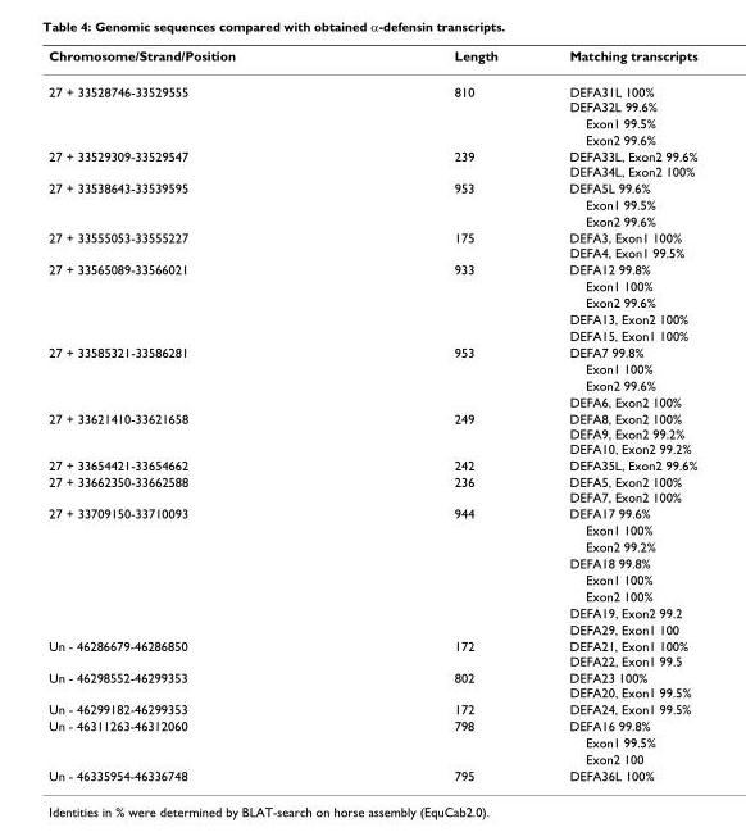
<table><thead><tr><td>Chromosome/Strand/Position</td><td>Length</td><td>Matching transcripts</td></tr></thead><tbody><tr><td rowspan="3">27 + 33528746-33529555</td><td>810</td><td>DEFA31L 100% DEFA32L 99.6%</td></tr><tr><td></td><td>Exon1 99.5%</td></tr><tr><td></td><td>Exon2 99.6%</td></tr><tr><td>27 + 33529309-33529547</td><td>239</td><td>DEFA33L, Exon2 99.6% DEFA34L, Exon2 100%</td></tr><tr><td rowspan="3">27 + 33538643-33539595</td><td>953</td><td>DEFA5L 99.6%</td></tr><tr><td></td><td>Exon1 99.5%</td></tr><tr><td></td><td>Exon2 99.6%</td></tr><tr><td>27 + 33555053-33555227</td><td>175</td><td>DEFA3, Exon1 100% DEFA4, Exon1 99.5%</td></tr><tr><td rowspan="5">27 + 33565089-33566021</td><td>933</td><td>DEFA12 99.8%</td></tr><tr><td></td><td>Exon1 100%</td></tr><tr><td></td><td>Exon2 99.6%</td></tr><tr><td></td><td>DEFA13, Exon2 100%</td></tr><tr><td></td><td>DEFA15, Exon1 100%</td></tr><tr><td rowspan="4">27 + 33585321-33586281</td><td>953</td><td>DEFA7 99.8%</td></tr><tr><td></td><td>Exon1 100%</td></tr><tr><td></td><td>Exon2 99.6%</td></tr><tr><td></td><td>DEFA6, Exon2 100%</td></tr><tr><td>27 + 33621410-33621658</td><td>249</td><td>DEFA8, Exon2 100% DEFA9, Exon2 99.2% DEFA10, Exon2 99.2%</td></tr><tr><td>27 + 33654421-33654662</td><td>242</td><td>DEFA35L, Exon2 99.6%</td></tr><tr><td>27 + 33662350-33662588</td><td>236</td><td>DEFA5, Exon2 100% DEFA7, Exon2 100%</td></tr><tr><td rowspan="8">27 + 33709150-33710093</td><td>944</td><td>DEFA17 99.6%</td></tr><tr><td></td><td>Exon1 100%</td></tr><tr><td></td><td>Exon2 99.2%</td></tr><tr><td></td><td>DEFA18 99.8%</td></tr><tr><td></td><td>Exon1 100%</td></tr><tr><td></td><td>Exon2 100%</td></tr><tr><td></td><td>DEFA19, Exon2 99.2</td></tr><tr><td></td><td>DEFA29, Exon1 100</td></tr><tr><td>Un - 46286679-46286850</td><td>172</td><td>DEFA21, Exon1 100% DEFA22, Exon1 99.5</td></tr><tr><td>Un - 46298552-46299353</td><td>802</td><td>DEFA23 100% DEFA20, Exon1 99.5%</td></tr><tr><td>Un - 46299182-46299353</td><td>172</td><td>DEFA24, Exon1 99.5%</td></tr><tr><td rowspan="3">Un - 46311263-46312060</td><td>798</td><td>DEFA16 99.8%</td></tr><tr><td></td><td>Exon1 99.5%</td></tr><tr><td></td><td>Exon2 100</td></tr><tr><td>Un - 46335954-46336748</td><td>795</td><td>DEFA36L 100%</td></tr></tbody></table>